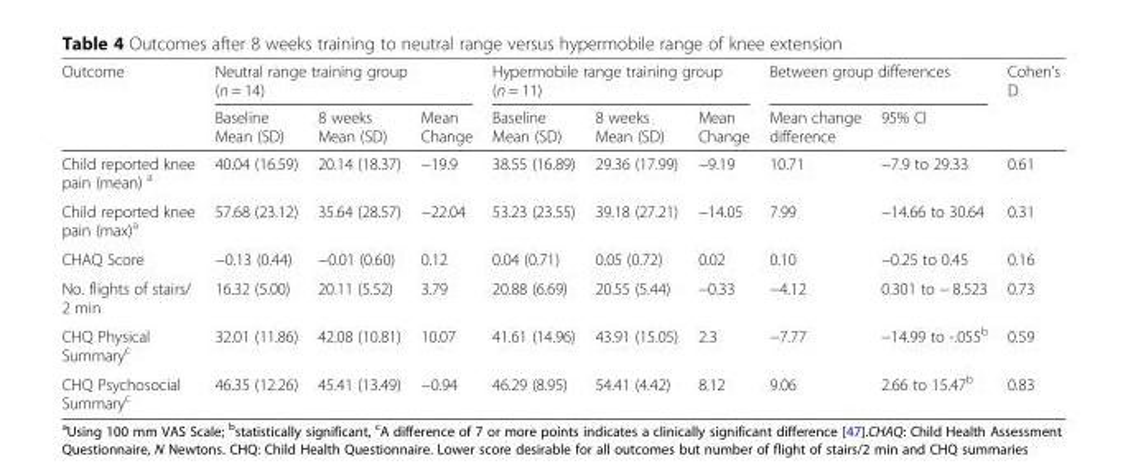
<table><thead><tr><td rowspan="2">Outcome</td><td colspan="3">Neutral range training group (n = 14)</td><td colspan="3">Hypermobile range training group (n = 11)</td><td colspan="2">Between group differences</td><td rowspan="2">Cohen’s D</td></tr><tr><td>Baseline Mean (SD)</td><td>8 weeks Mean (SD)</td><td>Mean Change</td><td>Baseline Mean (SD)</td><td>8 weeks Mean (SD)</td><td>Mean Change</td><td>Mean change difference</td><td>95% CI</td></tr></thead><tbody><tr><td>Child reported knee pain (mean) <sup>a</sup></td><td>40.04 (16.59)</td><td>20.14 (18.37)</td><td>−19.9</td><td>38.55 (16.89)</td><td>29.36 (17.99)</td><td>−9.19</td><td>10.71</td><td>−7.9 to 29.33</td><td>0.61</td></tr><tr><td>Child reported knee pain (max)<sup>a</sup></td><td>57.68 (23.12)</td><td>35.64 (28.57)</td><td>−22.04</td><td>53.23 (23.55)</td><td>39.18 (27.21)</td><td>−14.05</td><td>7.99</td><td>−14.66 to 30.64</td><td>0.31</td></tr><tr><td>CHAQ Score</td><td>−0.13 (0.44)</td><td>−0.01 (0.60)</td><td>0.12</td><td>0.04 (0.71)</td><td>0.05 (0.72)</td><td>0.02</td><td>0.10</td><td>−0.25 to 0.45</td><td>0.16</td></tr><tr><td>No. flights of stairs/ 2 min</td><td>16.32 (5.00)</td><td>20.11 (5.52)</td><td>3.79</td><td>20.88 (6.69)</td><td>20.55 (5.44)</td><td>−0.33</td><td>−4.12</td><td>0.301 to − 8.523</td><td>0.73</td></tr><tr><td>CHQ Physical Summary<sup>c</sup></td><td>32.01 (11.86)</td><td>42.08 (10.81)</td><td>10.07</td><td>41.61 (14.96)</td><td>43.91 (15.05)</td><td>2.3</td><td>−7.77</td><td>−14.99 to -.055<sup>b</sup></td><td>0.59</td></tr><tr><td>CHQ Psychosocial Summary<sup>c</sup></td><td>46.35 (12.26)</td><td>45.41 (13.49)</td><td>−0.94</td><td>46.29 (8.95)</td><td>54.41 (4.42)</td><td>8.12</td><td>9.06</td><td>2.66 to 15.47<sup>b</sup></td><td>0.83</td></tr></tbody></table>